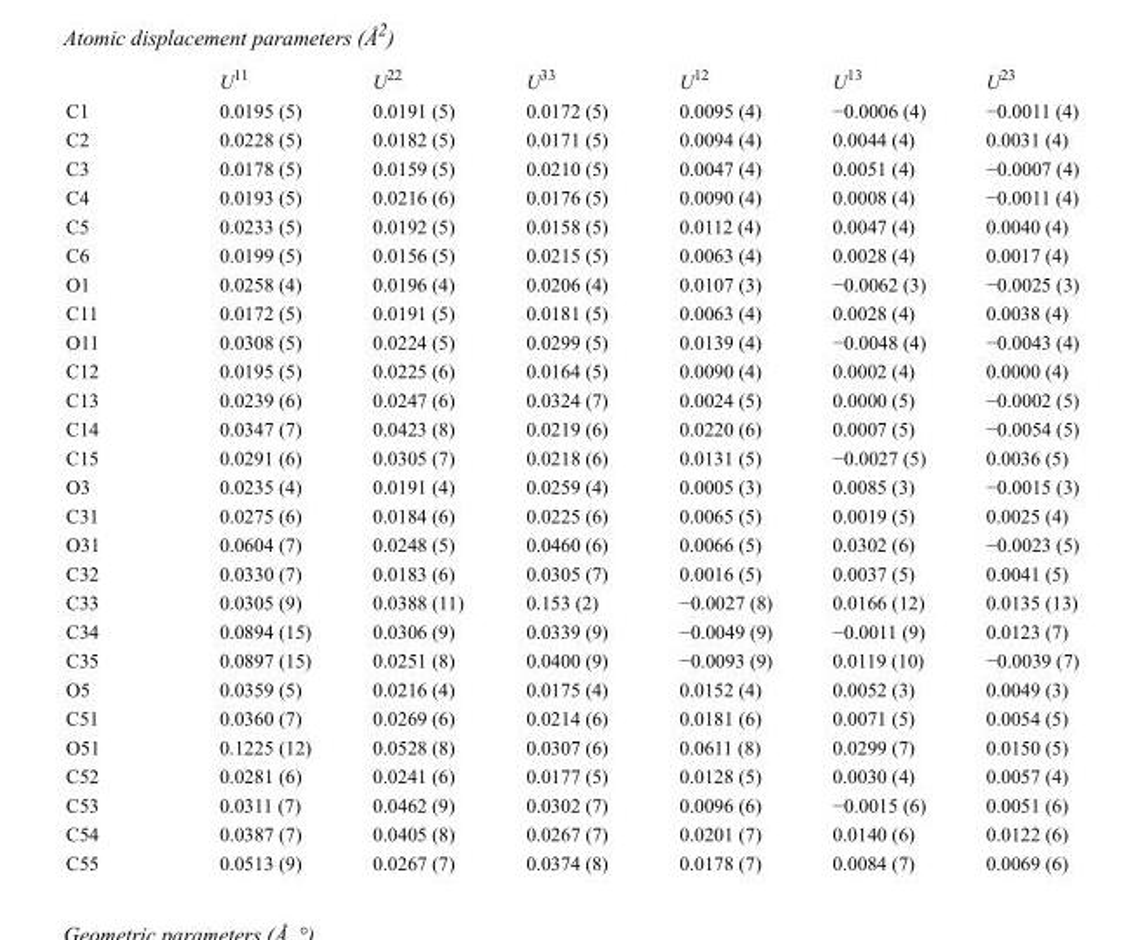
<table><thead><tr><td></td><td>U<sup>11</sup></td><td>U<sup>22</sup></td><td>U<sup>33</sup></td><td>U<sup>12</sup></td><td>U<sup>13</sup></td><td>U<sup>23</sup></td></tr></thead><tbody><tr><td>C1</td><td>0.0195 (5)</td><td>0.0191 (5)</td><td>0.0172 (5)</td><td>0.0095 (4)</td><td>−0.0006 (4)</td><td>−0.0011 (4)</td></tr><tr><td>C2</td><td>0.0228 (5)</td><td>0.0182 (5)</td><td>0.0171 (5)</td><td>0.0094 (4)</td><td>0.0044 (4)</td><td>0.0031 (4)</td></tr><tr><td>C3</td><td>0.0178 (5)</td><td>0.0159 (5)</td><td>0.0210 (5)</td><td>0.0047 (4)</td><td>0.0051 (4)</td><td>−0.0007 (4)</td></tr><tr><td>C4</td><td>0.0193 (5)</td><td>0.0216 (6)</td><td>0.0176 (5)</td><td>0.0090 (4)</td><td>0.0008 (4)</td><td>−0.0011 (4)</td></tr><tr><td>C5</td><td>0.0233 (5)</td><td>0.0192 (5)</td><td>0.0158 (5)</td><td>0.0112 (4)</td><td>0.0047 (4)</td><td>0.0040 (4)</td></tr><tr><td>C6</td><td>0.0199 (5)</td><td>0.0156 (5)</td><td>0.0215 (5)</td><td>0.0063 (4)</td><td>0.0028 (4)</td><td>0.0017 (4)</td></tr><tr><td>O1</td><td>0.0258 (4)</td><td>0.0196 (4)</td><td>0.0206 (4)</td><td>0.0107 (3)</td><td>−0.0062 (3)</td><td>−0.0025 (3)</td></tr><tr><td>C11</td><td>0.0172 (5)</td><td>0.0191 (5)</td><td>0.0181 (5)</td><td>0.0063 (4)</td><td>0.0028 (4)</td><td>0.0038 (4)</td></tr><tr><td>O11</td><td>0.0308 (5)</td><td>0.0224 (5)</td><td>0.0299 (5)</td><td>0.0139 (4)</td><td>−0.0048 (4)</td><td>−0.0043 (4)</td></tr><tr><td>C12</td><td>0.0195 (5)</td><td>0.0225 (6)</td><td>0.0164 (5)</td><td>0.0090 (4)</td><td>0.0002 (4)</td><td>0.0000 (4)</td></tr><tr><td>C13</td><td>0.0239 (6)</td><td>0.0247 (6)</td><td>0.0324 (7)</td><td>0.0024 (5)</td><td>0.0000 (5)</td><td>−0.0002 (5)</td></tr><tr><td>C14</td><td>0.0347 (7)</td><td>0.0423 (8)</td><td>0.0219 (6)</td><td>0.0220 (6)</td><td>0.0007 (5)</td><td>−0.0054 (5)</td></tr><tr><td>C15</td><td>0.0291 (6)</td><td>0.0305 (7)</td><td>0.0218 (6)</td><td>0.0131 (5)</td><td>−0.0027 (5)</td><td>0.0036 (5)</td></tr><tr><td>O3</td><td>0.0235 (4)</td><td>0.0191 (4)</td><td>0.0259 (4)</td><td>0.0005 (3)</td><td>0.0085 (3)</td><td>−0.0015 (3)</td></tr><tr><td>C31</td><td>0.0275 (6)</td><td>0.0184 (6)</td><td>0.0225 (6)</td><td>0.0065 (5)</td><td>0.0019 (5)</td><td>0.0025 (4)</td></tr><tr><td>O31</td><td>0.0604 (7)</td><td>0.0248 (5)</td><td>0.0460 (6)</td><td>0.0066 (5)</td><td>0.0302 (6)</td><td>−0.0023 (5)</td></tr><tr><td>C32</td><td>0.0330 (7)</td><td>0.0183 (6)</td><td>0.0305 (7)</td><td>0.0016 (5)</td><td>0.0037 (5)</td><td>0.0041 (5)</td></tr><tr><td>C33</td><td>0.0305 (9)</td><td>0.0388 (11)</td><td>0.153 (2)</td><td>−0.0027 (8)</td><td>0.0166 (12)</td><td>0.0135 (13)</td></tr><tr><td>C34</td><td>0.0894 (15)</td><td>0.0306 (9)</td><td>0.0339 (9)</td><td>−0.0049 (9)</td><td>−0.0011 (9)</td><td>0.0123 (7)</td></tr><tr><td>C35</td><td>0.0897 (15)</td><td>0.0251 (8)</td><td>0.0400 (9)</td><td>−0.0093 (9)</td><td>0.0119 (10)</td><td>−0.0039 (7)</td></tr><tr><td>O5</td><td>0.0359 (5)</td><td>0.0216 (4)</td><td>0.0175 (4)</td><td>0.0152 (4)</td><td>0.0052 (3)</td><td>0.0049 (3)</td></tr><tr><td>C51</td><td>0.0360 (7)</td><td>0.0269 (6)</td><td>0.0214 (6)</td><td>0.0181 (6)</td><td>0.0071 (5)</td><td>0.0054 (5)</td></tr><tr><td>O51</td><td>0.1225 (12)</td><td>0.0528 (8)</td><td>0.0307 (6)</td><td>0.0611 (8)</td><td>0.0299 (7)</td><td>0.0150 (5)</td></tr><tr><td>C52</td><td>0.0281 (6)</td><td>0.0241 (6)</td><td>0.0177 (5)</td><td>0.0128 (5)</td><td>0.0030 (4)</td><td>0.0057 (4)</td></tr><tr><td>C53</td><td>0.0311 (7)</td><td>0.0462 (9)</td><td>0.0302 (7)</td><td>0.0096 (6)</td><td>−0.0015 (6)</td><td>0.0051 (6)</td></tr><tr><td>C54</td><td>0.0387 (7)</td><td>0.0405 (8)</td><td>0.0267 (7)</td><td>0.0201 (7)</td><td>0.0140 (6)</td><td>0.0122 (6)</td></tr><tr><td>C55</td><td>0.0513 (9)</td><td>0.0267 (7)</td><td>0.0374 (8)</td><td>0.0178 (7)</td><td>0.0084 (7)</td><td>0.0069 (6)</td></tr></tbody></table>